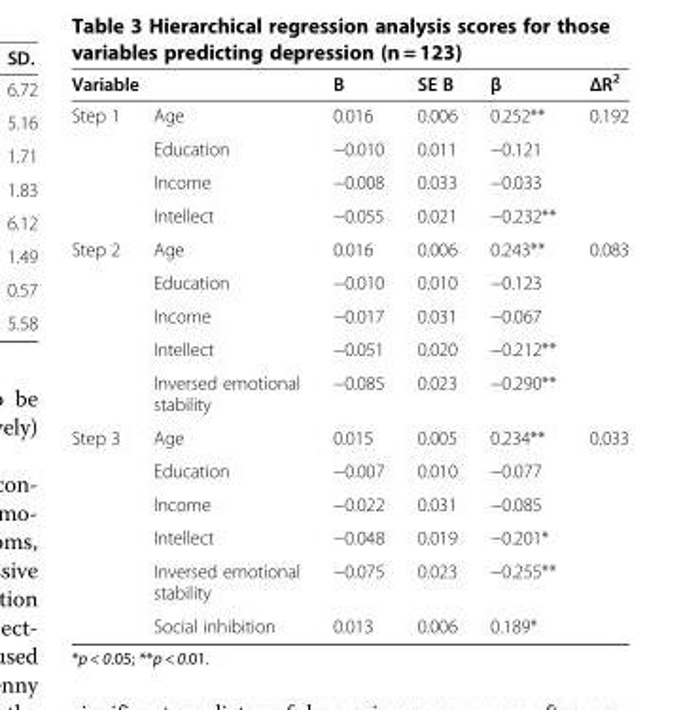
<table><thead><tr><td colspan="2">Variable</td><td rowspan="2">B 0.016</td><td rowspan="2">SE B 0.006</td><td rowspan="2">β 0.252**</td><td rowspan="2">ΔR<sup>2</sup> 0.192</td></tr><tr><td>Step 1</td><td>Age</td></tr></thead><tbody><tr><td></td><td>Education</td><td>−0.010</td><td>0.011</td><td>−0.121</td><td></td></tr><tr><td></td><td>Income</td><td>−0.008</td><td>0.033</td><td>−0.033</td><td></td></tr><tr><td></td><td>Intellect</td><td>−0.055</td><td>0.021</td><td>−0.232**</td><td></td></tr><tr><td rowspan="5">Step 2</td><td>Age</td><td>0.016</td><td>0.006</td><td>0.243**</td><td>0.083</td></tr><tr><td>Education</td><td>−0.010</td><td>0.010</td><td>−0.123</td><td></td></tr><tr><td>Income</td><td>−0.017</td><td>0.031</td><td>−0.067</td><td></td></tr><tr><td>Intellect</td><td>−0.051</td><td>0.020</td><td>−0.212**</td><td></td></tr><tr><td>Inversed emotional stability</td><td>−0.085</td><td>0.023</td><td>−0.290**</td><td></td></tr><tr><td rowspan="6">Step 3</td><td>Age</td><td>0.015</td><td>0.005</td><td>0.234**</td><td>0.033</td></tr><tr><td>Education</td><td>−0.007</td><td>0.010</td><td>−0.077</td><td></td></tr><tr><td>Income</td><td>−0.022</td><td>0.031</td><td>−0.085</td><td></td></tr><tr><td>Intellect</td><td>−0.048</td><td>0.019</td><td>−0.201*</td><td></td></tr><tr><td>Inversed emotional stability</td><td>−0.075</td><td>0.023</td><td>−0.255**</td><td></td></tr><tr><td>Social inhibition</td><td>0.013</td><td>0.006</td><td>0.189*</td><td></td></tr></tbody></table>